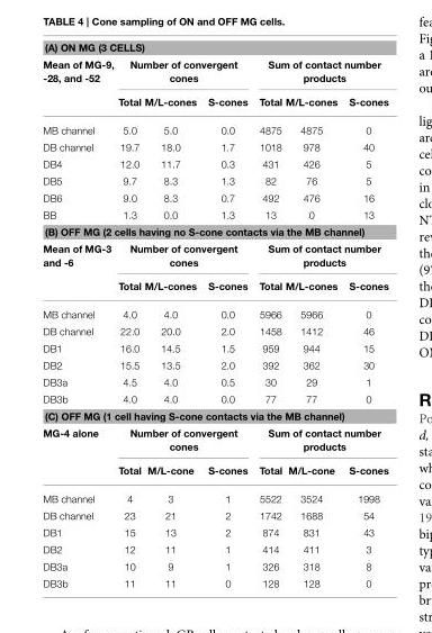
<table><thead><tr><td colspan="7">(A) ON MG (3 CELLS)</td></tr><tr><td rowspan="2">Mean of MG-9, -28, and -52</td><td colspan="3">Number of convergent cones</td><td colspan="3">Sum of contact number products</td></tr><tr><td>Total</td><td>M/L-cones</td><td>S-cones</td><td>Total</td><td>M/L-cones</td><td>S-cones</td></tr></thead><tbody><tr><td>MB channel</td><td>5.0</td><td>5.0</td><td>0.0</td><td>4875</td><td>4875</td><td>0</td></tr><tr><td>DB channel</td><td>19.7</td><td>18.0</td><td>1.7</td><td>1018</td><td>978</td><td>40</td></tr><tr><td>DB4</td><td>12.0</td><td>11.7</td><td>0.3</td><td>431</td><td>426</td><td>5</td></tr><tr><td>DB5</td><td>9.7</td><td>8.3</td><td>1.3</td><td>82</td><td>76</td><td>5</td></tr><tr><td>DB6</td><td>9.0</td><td>8.3</td><td>0.7</td><td>492</td><td>476</td><td>16</td></tr><tr><td>BB</td><td>1.3</td><td>0.0</td><td>1.3</td><td>13</td><td>0</td><td>13</td></tr><tr><td colspan="7">(B) OFF MG (2 cells having no S-cone contacts via the MB channel)</td></tr><tr><td rowspan="2">Mean of MG-3 and -6</td><td colspan="3">Number of convergent cones</td><td colspan="3">Sum of contact number products</td></tr><tr><td>Total</td><td>M/L-cones</td><td>S-cones</td><td>Total</td><td>M/L-cones</td><td>S-cones</td></tr><tr><td>MB channel</td><td>4.0</td><td>4.0</td><td>0.0</td><td>5966</td><td>5966</td><td>0</td></tr><tr><td>DB channel</td><td>22.0</td><td>20.0</td><td>2.0</td><td>1458</td><td>1412</td><td>46</td></tr><tr><td>DB1</td><td>16.0</td><td>14.5</td><td>1.5</td><td>959</td><td>944</td><td>15</td></tr><tr><td>DB2</td><td>15.5</td><td>13.5</td><td>2.0</td><td>392</td><td>362</td><td>30</td></tr><tr><td>DB3a</td><td>4.5</td><td>4.0</td><td>0.5</td><td>30</td><td>29</td><td>1</td></tr><tr><td>DB3b</td><td>4.0</td><td>4.0</td><td>0.0</td><td>77</td><td>77</td><td>0</td></tr><tr><td colspan="7">(C) OFF MG (1 cell having S-cone contacts via the MB channel)</td></tr><tr><td rowspan="2">MG-4 alone</td><td colspan="3">Number of convergent cones</td><td colspan="3">Sum of contact number products</td></tr><tr><td>Total</td><td>M/L-cone</td><td>S-cones</td><td>Total</td><td>M/L-cone</td><td>S-cones</td></tr><tr><td>MB channel</td><td>4</td><td>3</td><td>1</td><td>5522</td><td>3524</td><td>1998</td></tr><tr><td>DB channel</td><td>23</td><td>21</td><td>2</td><td>1742</td><td>1688</td><td>54</td></tr><tr><td>DB1</td><td>15</td><td>13</td><td>2</td><td>874</td><td>831</td><td>43</td></tr><tr><td>DB2</td><td>12</td><td>11</td><td>1</td><td>414</td><td>411</td><td>3</td></tr><tr><td>DB3a</td><td>10</td><td>9</td><td>1</td><td>326</td><td>318</td><td>8</td></tr><tr><td>DB3b</td><td>11</td><td>11</td><td>0</td><td>128</td><td>128</td><td>0</td></tr></tbody></table>